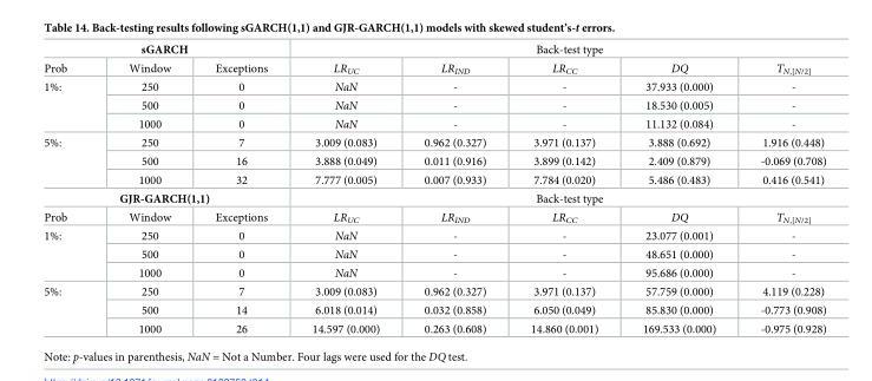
<table><tbody><tr><td colspan="3">sGARCH</td><td colspan="5">Back-test type</td></tr><tr><td>Prob</td><td>Window</td><td>Exceptions</td><td>LR<sub>UC</sub></td><td>LR<sub>IND</sub></td><td>LR<sub>CC</sub></td><td>DQ</td><td>T<sub>N,[N/2]</sub></td></tr><tr><td rowspan="3">1%:</td><td>250</td><td>0</td><td>NaN</td><td>-</td><td>-</td><td>37.933 (0.000)</td><td>-</td></tr><tr><td>500</td><td>0</td><td>NaN</td><td>-</td><td>-</td><td>18.530 (0.005)</td><td>-</td></tr><tr><td>1000</td><td>0</td><td>NaN</td><td>-</td><td>-</td><td>11.132 (0.084)</td><td>-</td></tr><tr><td rowspan="3">5%:</td><td>250</td><td>7</td><td>3.009 (0.083)</td><td>0.962 (0.327)</td><td>3.971 (0.137)</td><td>3.888 (0.692)</td><td>1.916 (0.448)</td></tr><tr><td>500</td><td>16</td><td>3.888 (0.049)</td><td>0.011 (0.916)</td><td>3.899 (0.142)</td><td>2.409 (0.879)</td><td>-0.069 (0.708)</td></tr><tr><td>1000</td><td>32</td><td>7.777 (0.005)</td><td>0.007 (0.933)</td><td>7.784 (0.020)</td><td>5.486 (0.483)</td><td>0.416 (0.541)</td></tr><tr><td colspan="3">GJR-GARCH(1,1)</td><td colspan="5">Back-test type</td></tr><tr><td>Prob</td><td>Window</td><td>Exceptions</td><td>LR<sub>UC</sub></td><td>LR<sub>IND</sub></td><td>LR<sub>CC</sub></td><td>DQ</td><td>T<sub>N,[N/2]</sub></td></tr><tr><td rowspan="3">1%:</td><td>250</td><td>0</td><td>NaN</td><td>-</td><td>-</td><td>23.077 (0.001)</td><td>-</td></tr><tr><td>500</td><td>0</td><td>NaN</td><td>-</td><td>-</td><td>48.651 (0.000)</td><td>-</td></tr><tr><td>1000</td><td>0</td><td>NaN</td><td>-</td><td>-</td><td>95.686 (0.000)</td><td>-</td></tr><tr><td rowspan="3">5%:</td><td>250</td><td>7</td><td>3.009 (0.083)</td><td>0.962 (0.327)</td><td>3.971 (0.137)</td><td>57.759 (0.000)</td><td>4.119 (0.228)</td></tr><tr><td>500</td><td>14</td><td>6.018 (0.014)</td><td>0.032 (0.858)</td><td>6.050 (0.049)</td><td>85.830 (0.000)</td><td>-0.773 (0.908)</td></tr><tr><td>1000</td><td>26</td><td>14.597 (0.000)</td><td>0.263 (0.608)</td><td>14.860 (0.001)</td><td>169.533 (0.000)</td><td>-0.975 (0.928)</td></tr></tbody></table>